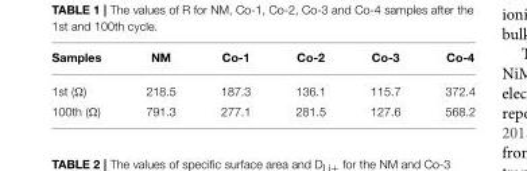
<table><thead><tr><td>Samples</td><td>NM</td><td>Co-1</td><td>Co-2</td><td>Co-3</td><td>Co-4</td></tr></thead><tbody><tr><td>1st (Ω)</td><td>218.5</td><td>187.3</td><td>136.1</td><td>115.7</td><td>372.4</td></tr><tr><td>100th (Ω)</td><td>791.3</td><td>277.1</td><td>281.5</td><td>127.6</td><td>568.2</td></tr></tbody></table>